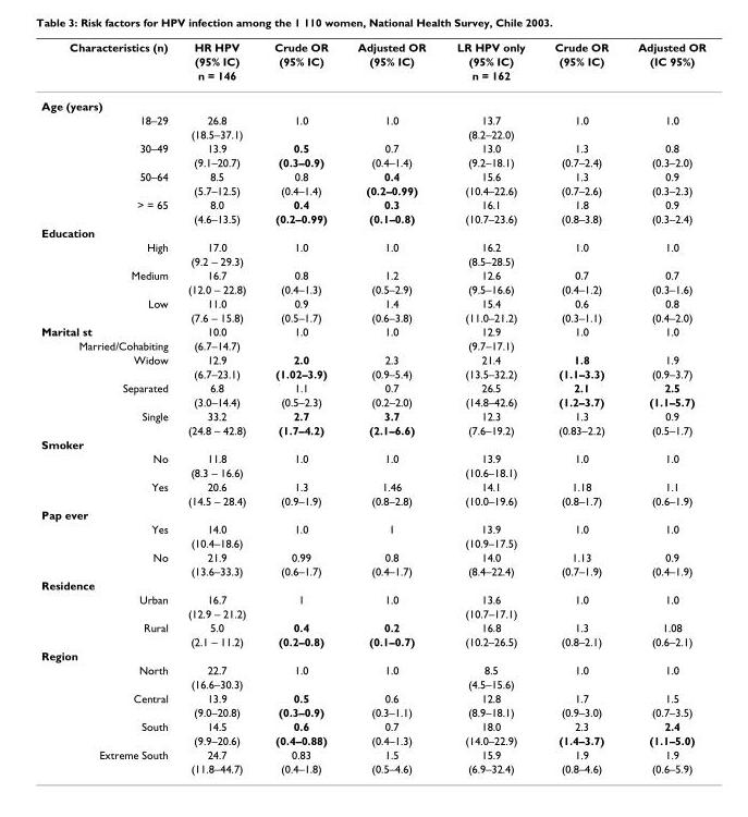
<table><thead><tr><td rowspan="3">Characteristics (n)</td><td rowspan="3">HR HPV (95% IC) n = 146</td><td rowspan="3">Crude OR (95% IC)</td><td rowspan="3">Adjusted OR (95% IC)</td><td rowspan="3">LR HPV only (95% IC) n = 162</td><td rowspan="3">Crude OR (95% IC)</td><td rowspan="3">Adjusted OR (IC 95%)</td></tr><tr></tr><tr></tr></thead><tbody><tr><td colspan="7">Age (years)</td></tr><tr><td rowspan="2">18–29</td><td>26.8</td><td>1.0</td><td>1.0</td><td>13.7</td><td>1.0</td><td>1.0</td></tr><tr><td>(18.5–37.1)</td><td></td><td></td><td>(8.2–22.0)</td><td></td><td></td></tr><tr><td rowspan="2">30–49</td><td>13.9</td><td>0.5</td><td>0.7</td><td>13.0</td><td>1.3</td><td>0.8</td></tr><tr><td>(9.1–20.7)</td><td>(0.3–0.9)</td><td>(0.4–1.4)</td><td>(9.2–18.1)</td><td>(0.7–2.4)</td><td>(0.3–2.0)</td></tr><tr><td rowspan="2">50–64</td><td>8.5</td><td>0.8</td><td>0.4</td><td>15.6</td><td>1.3</td><td>0.9</td></tr><tr><td>(5.7–12.5)</td><td>(0.4–1.4)</td><td>(0.2–0.99)</td><td>(10.4–22.6)</td><td>(0.7–2.6)</td><td>(0.3–2.3)</td></tr><tr><td rowspan="2">&gt; = 65</td><td>8.0</td><td>0.4</td><td>0.3</td><td>16.1</td><td>1.8</td><td>0.9</td></tr><tr><td>(4.6–13.5)</td><td>(0.2–0.99)</td><td>(0.1–0.8)</td><td>(10.7–23.6)</td><td>(0.8–3.8)</td><td>(0.3–2.4)</td></tr><tr><td colspan="7">Education</td></tr><tr><td rowspan="2">High</td><td>17.0</td><td>1.0</td><td>1.0</td><td>16.2</td><td>1.0</td><td>1.0</td></tr><tr><td>(9.2 – 29.3)</td><td></td><td></td><td>(8.5–28.5)</td><td></td><td></td></tr><tr><td rowspan="2">Medium</td><td>16.7</td><td>0.8</td><td>1.2</td><td>12.6</td><td>0.7</td><td>0.7</td></tr><tr><td>(12.0 – 22.8)</td><td>(0.4–1.3)</td><td>(0.5–2.9)</td><td>(9.5–16.6)</td><td>(0.4–1.2)</td><td>(0.3–1.6)</td></tr><tr><td rowspan="2">Low</td><td>11.0</td><td>0.9</td><td>1.4</td><td>15.4</td><td>0.6</td><td>0.8</td></tr><tr><td>(7.6 – 15.8)</td><td>(0.5–1.7)</td><td>(0.6–3.8)</td><td>(11.0–21.2)</td><td>(0.3–1.1)</td><td>(0.4–2.0)</td></tr><tr><td>Marital st</td><td>10.0</td><td>1.0</td><td>1.0</td><td>12.9</td><td>1.0</td><td>1.0</td></tr><tr><td>Married/Cohabiting</td><td>(6.7–14.7)</td><td></td><td></td><td>(9.7–17.1)</td><td></td><td></td></tr><tr><td rowspan="2">Widow</td><td>12.9</td><td>2.0</td><td>2.3</td><td>21.4</td><td>1.8</td><td>1.9</td></tr><tr><td>(6.7–23.1)</td><td>(1.02–3.9)</td><td>(0.9–5.4)</td><td>(13.5–32.2)</td><td>(1.1–3.3)</td><td>(0.9–3.7)</td></tr><tr><td rowspan="2">Separated</td><td>6.8</td><td>1.1</td><td>0.7</td><td>26.5</td><td>2.1</td><td>2.5</td></tr><tr><td>(3.0–14.4)</td><td>(0.5–2.3)</td><td>(0.2–2.0)</td><td>(14.8–42.6)</td><td>(1.2–3.7)</td><td>(1.1–5.7)</td></tr><tr><td rowspan="2">Single</td><td>33.2</td><td>2.7</td><td>3.7</td><td>12.3</td><td>1.3</td><td>0.9</td></tr><tr><td>(24.8 – 42.8)</td><td>(1.7–4.2)</td><td>(2.1–6.6)</td><td>(7.6–19.2)</td><td>(0.83–2.2)</td><td>(0.5–1.7)</td></tr><tr><td colspan="7">Smoker</td></tr><tr><td rowspan="2">No</td><td>11.8</td><td>1.0</td><td>1.0</td><td>13.9</td><td>1.0</td><td>1.0</td></tr><tr><td>(8.3 – 16.6)</td><td></td><td></td><td>(10.6–18.1)</td><td></td><td></td></tr><tr><td rowspan="2">Yes</td><td>20.6</td><td>1.3</td><td>1.46</td><td>14.1</td><td>1.18</td><td>1.1</td></tr><tr><td>(14.5 – 28.4)</td><td>(0.9–1.9)</td><td>(0.8–2.8)</td><td>(10.0–19.6)</td><td>(0.8–1.7)</td><td>(0.6–1.9)</td></tr><tr><td colspan="7">Pap ever</td></tr><tr><td rowspan="2">Yes</td><td>14.0</td><td>1.0</td><td>1</td><td>13.9</td><td>1.0</td><td>1.0</td></tr><tr><td>(10.4–18.6)</td><td></td><td></td><td>(10.9–17.5)</td><td></td><td></td></tr><tr><td rowspan="2">No</td><td>21.9</td><td>0.99</td><td>0.8</td><td>14.0</td><td>1.13</td><td>0.9</td></tr><tr><td>(13.6–33.3)</td><td>(0.6–1.7)</td><td>(0.4–1.7)</td><td>(8.4–22.4)</td><td>(0.7–1.9)</td><td>(0.4–1.9)</td></tr><tr><td colspan="7">Residence</td></tr><tr><td rowspan="2">Urban</td><td>16.7</td><td>1</td><td>1.0</td><td>13.6</td><td>1.0</td><td>1.0</td></tr><tr><td>(12.9 – 21.2)</td><td></td><td></td><td>(10.7–17.1)</td><td></td><td></td></tr><tr><td rowspan="2">Rural</td><td>5.0</td><td>0.4</td><td>0.2</td><td>16.8</td><td>1.3</td><td>1.08</td></tr><tr><td>(2.1 – 11.2)</td><td>(0.2–0.8)</td><td>(0.1–0.7)</td><td>(10.2–26.5)</td><td>(0.8–2.1)</td><td>(0.6–2.1)</td></tr><tr><td colspan="7">Region</td></tr><tr><td rowspan="2">North</td><td>22.7</td><td>1.0</td><td>1.0</td><td>8.5</td><td>1.0</td><td>1.0</td></tr><tr><td>(16.6–30.3)</td><td></td><td></td><td>(4.5–15.6)</td><td></td><td></td></tr><tr><td rowspan="2">Central</td><td>13.9</td><td>0.5</td><td>0.6</td><td>12.8</td><td>1.7</td><td>1.5</td></tr><tr><td>(9.0–20.8)</td><td>(0.3–0.9)</td><td>(0.3–1.1)</td><td>(8.9–18.1)</td><td>(0.9–3.0)</td><td>(0.7–3.5)</td></tr><tr><td rowspan="2">South</td><td>14.5</td><td>0.6</td><td>0.7</td><td>18.0</td><td>2.3</td><td>2.4</td></tr><tr><td>(9.9–20.6)</td><td>(0.4–0.88)</td><td>(0.4–1.3)</td><td>(14.0–22.9)</td><td>(1.4–3.7)</td><td>(1.1–5.0)</td></tr><tr><td rowspan="2">Extreme South</td><td>24.7</td><td>0.83</td><td>1.5</td><td>15.9</td><td>1.9</td><td>1.9</td></tr><tr><td>(11.8–44.7)</td><td>(0.4–1.8)</td><td>(0.5–4.6)</td><td>(6.9–32.4)</td><td>(0.8–4.6)</td><td>(0.6–5.9)</td></tr></tbody></table>